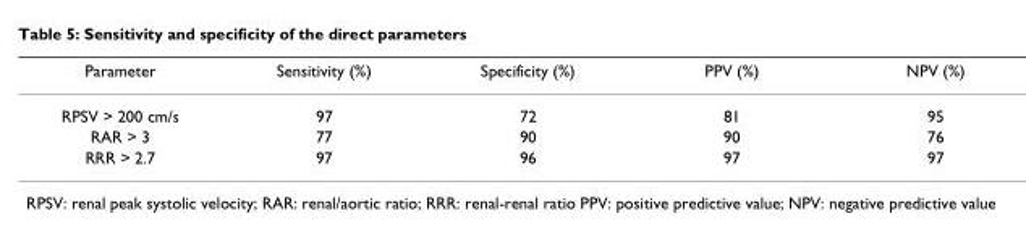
<table><thead><tr><td>Parameter</td><td>Sensitivity (%)</td><td>Specificity (%)</td><td>PPV (%)</td><td>NPV (%)</td></tr></thead><tbody><tr><td>RPSV &gt; 200 cm/s</td><td>97</td><td>72</td><td>81</td><td>95</td></tr><tr><td>RAR &gt; 3</td><td>77</td><td>90</td><td>90</td><td>76</td></tr><tr><td>RRR &gt; 2.7</td><td>97</td><td>96</td><td>97</td><td>97</td></tr></tbody></table>